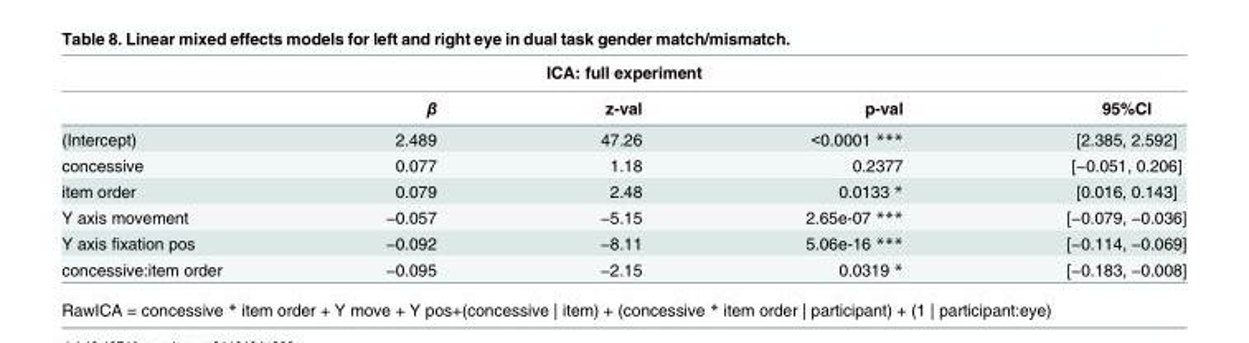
<table><thead><tr><td colspan="5">ICA: full experiment</td></tr><tr><td></td><td>β</td><td>z-val</td><td>p-val</td><td>95%CI</td></tr></thead><tbody><tr><td>(Intercept)</td><td>2.489</td><td>47.26</td><td>&lt;0.0001 ***</td><td>[2.385, 2.592]</td></tr><tr><td>concessive</td><td>0.077</td><td>1.18</td><td>0.2377</td><td>[−0.051, 0.206]</td></tr><tr><td>item order</td><td>0.079</td><td>2.48</td><td>0.0133 *</td><td>[0.016, 0.143]</td></tr><tr><td>Y axis movement</td><td>−0.057</td><td>−5.15</td><td>2.65e-07 ***</td><td>[−0.079, −0.036]</td></tr><tr><td>Y axis fixation pos</td><td>−0.092</td><td>−8.11</td><td>5.06e-16 ***</td><td>[−0.114, −0.069]</td></tr><tr><td>concessive:item order</td><td>−0.095</td><td>−2.15</td><td>0.0319 *</td><td>[−0.183, −0.008]</td></tr></tbody></table>